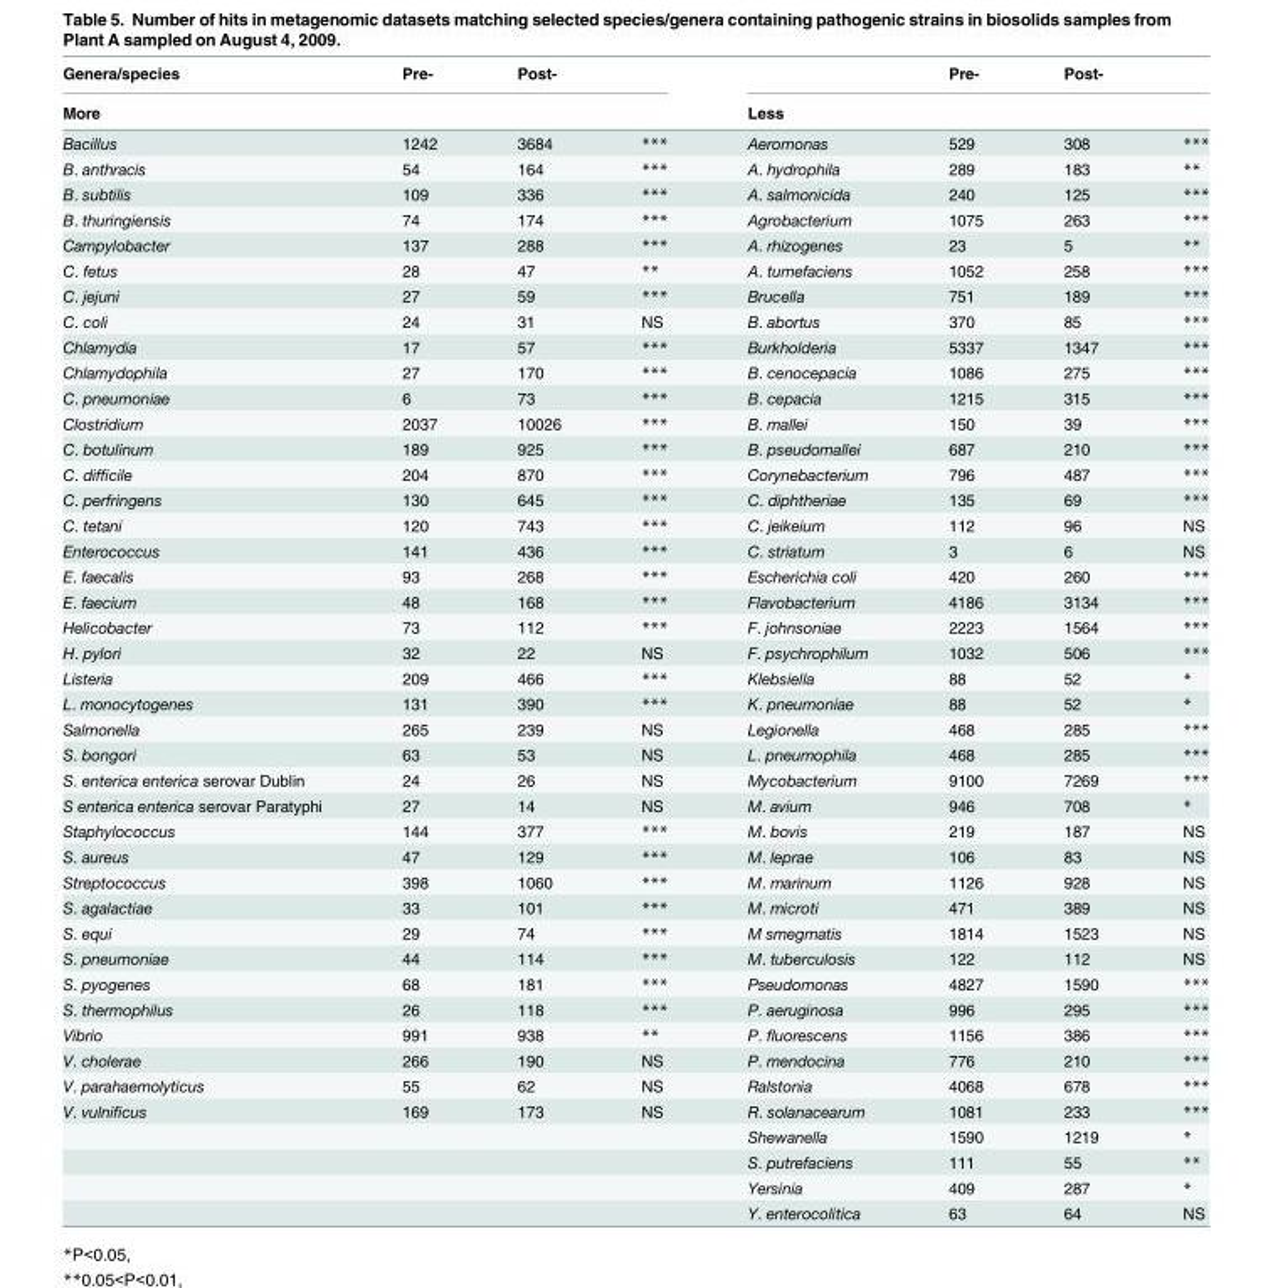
<table><thead><tr><td rowspan="2">Genera/species More</td><td rowspan="2">Pre-</td><td rowspan="2">Post-</td><td rowspan="2"></td><td rowspan="2">Less</td><td rowspan="2">Pre-</td><td rowspan="2">Post-</td><td rowspan="2"></td></tr><tr></tr></thead><tbody><tr><td>Bacillus</td><td>1242</td><td>3684</td><td>***</td><td>Aeromonas</td><td>529</td><td>308</td><td>***</td></tr><tr><td>B. anthracis</td><td>54</td><td>164</td><td>***</td><td>A. hydrophila</td><td>289</td><td>183</td><td>**</td></tr><tr><td>B. subtilis</td><td>109</td><td>336</td><td>***</td><td>A. salmonicida</td><td>240</td><td>125</td><td>***</td></tr><tr><td>B. thuringiensis</td><td>74</td><td>174</td><td>***</td><td>Agrobacterium</td><td>1075</td><td>263</td><td>***</td></tr><tr><td>Campylobacter</td><td>137</td><td>288</td><td>***</td><td>A. rhizogenes</td><td>23</td><td>5</td><td>**</td></tr><tr><td>C. fetus</td><td>28</td><td>47</td><td>**</td><td>A. tumefaciens</td><td>1052</td><td>258</td><td>***</td></tr><tr><td>C. jejuni</td><td>27</td><td>59</td><td>***</td><td>Brucella</td><td>751</td><td>189</td><td>***</td></tr><tr><td>C. coli</td><td>24</td><td>31</td><td>NS</td><td>B. abortus</td><td>370</td><td>85</td><td>***</td></tr><tr><td>Chlamydia</td><td>17</td><td>57</td><td>***</td><td>Burkholderia</td><td>5337</td><td>1347</td><td>***</td></tr><tr><td>Chlamydophila</td><td>27</td><td>170</td><td>***</td><td>B. cenocepacia</td><td>1086</td><td>275</td><td>***</td></tr><tr><td>C. pneumoniae</td><td>6</td><td>73</td><td>***</td><td>B. cepacia</td><td>1215</td><td>315</td><td>***</td></tr><tr><td>Clostridium</td><td>2037</td><td>10026</td><td>***</td><td>B. mallei</td><td>150</td><td>39</td><td>***</td></tr><tr><td>C. botulinum</td><td>189</td><td>925</td><td>***</td><td>B. pseudomallei</td><td>687</td><td>210</td><td>***</td></tr><tr><td>C. difficile</td><td>204</td><td>870</td><td>***</td><td>Corynebacterium</td><td>796</td><td>487</td><td>***</td></tr><tr><td>C. perfringens</td><td>130</td><td>645</td><td>***</td><td>C. diphtheriae</td><td>135</td><td>69</td><td>***</td></tr><tr><td>C. tetani</td><td>120</td><td>743</td><td>***</td><td>C. jeikeium</td><td>112</td><td>96</td><td>NS</td></tr><tr><td>Enterococcus</td><td>141</td><td>436</td><td>***</td><td>C. striatum</td><td>3</td><td>6</td><td>NS</td></tr><tr><td>E. faecalis</td><td>93</td><td>268</td><td>***</td><td>Escherichia coli</td><td>420</td><td>260</td><td>***</td></tr><tr><td>E. faecium</td><td>48</td><td>168</td><td>***</td><td>Flavobacterium</td><td>4186</td><td>3134</td><td>***</td></tr><tr><td>Helicobacter</td><td>73</td><td>112</td><td>***</td><td>F. johnsoniae</td><td>2223</td><td>1564</td><td>***</td></tr><tr><td>H. pylori</td><td>32</td><td>22</td><td>NS</td><td>F. psychrophilum</td><td>1032</td><td>506</td><td>***</td></tr><tr><td>Listeria</td><td>209</td><td>466</td><td>***</td><td>Klebsiella</td><td>88</td><td>52</td><td>*</td></tr><tr><td>L. monocytogenes</td><td>131</td><td>390</td><td>***</td><td>K. pneumoniae</td><td>88</td><td>52</td><td>*</td></tr><tr><td>Salmonella</td><td>265</td><td>239</td><td>NS</td><td>Legionella</td><td>468</td><td>285</td><td>***</td></tr><tr><td>S. bongori</td><td>63</td><td>53</td><td>NS</td><td>L. pneumophila</td><td>468</td><td>285</td><td>***</td></tr><tr><td>S. enterica enterica serovar Dublin</td><td>24</td><td>26</td><td>NS</td><td>Mycobacterium</td><td>9100</td><td>7269</td><td>***</td></tr><tr><td>S enterica enterica serovar Paratyphi</td><td>27</td><td>14</td><td>NS</td><td>M. avium</td><td>946</td><td>708</td><td>*</td></tr><tr><td>Staphylococcus</td><td>144</td><td>377</td><td>***</td><td>M. bovis</td><td>219</td><td>187</td><td>NS</td></tr><tr><td>S. aureus</td><td>47</td><td>129</td><td>***</td><td>M. leprae</td><td>106</td><td>83</td><td>NS</td></tr><tr><td>Streptococcus</td><td>398</td><td>1060</td><td>***</td><td>M. marinum</td><td>1126</td><td>928</td><td>NS</td></tr><tr><td>S. agalactiae</td><td>33</td><td>101</td><td>***</td><td>M. microti</td><td>471</td><td>389</td><td>NS</td></tr><tr><td>S. equi</td><td>29</td><td>74</td><td>***</td><td>M smegmatis</td><td>1814</td><td>1523</td><td>NS</td></tr><tr><td>S. pneumoniae</td><td>44</td><td>114</td><td>***</td><td>M. tuberculosis</td><td>122</td><td>112</td><td>NS</td></tr><tr><td>S. pyogenes</td><td>68</td><td>181</td><td>***</td><td>Pseudomonas</td><td>4827</td><td>1590</td><td>***</td></tr><tr><td>S. thermophilus</td><td>26</td><td>118</td><td>***</td><td>P. aeruginosa</td><td>996</td><td>295</td><td>***</td></tr><tr><td>Vibrio</td><td>991</td><td>938</td><td>**</td><td>P. fluorescens</td><td>1156</td><td>386</td><td>***</td></tr><tr><td>V. cholerae</td><td>266</td><td>190</td><td>NS</td><td>P. mendocina</td><td>776</td><td>210</td><td>***</td></tr><tr><td>V. parahaemolyticus</td><td>55</td><td>62</td><td>NS</td><td>Ralstonia</td><td>4068</td><td>678</td><td>***</td></tr><tr><td rowspan="5">V. vulnificus</td><td>169</td><td>173</td><td>NS</td><td>R. solanacearum</td><td>1081</td><td>233</td><td>***</td></tr><tr><td></td><td></td><td></td><td>Shewanella</td><td>1590</td><td>1219</td><td>*</td></tr><tr><td></td><td></td><td></td><td>S. putrefaciens</td><td>111</td><td>55</td><td>**</td></tr><tr><td></td><td></td><td></td><td>Yersinia</td><td>409</td><td>287</td><td>*</td></tr><tr><td></td><td></td><td></td><td>Y. enterocolitica</td><td>63</td><td>64</td><td>NS</td></tr></tbody></table>